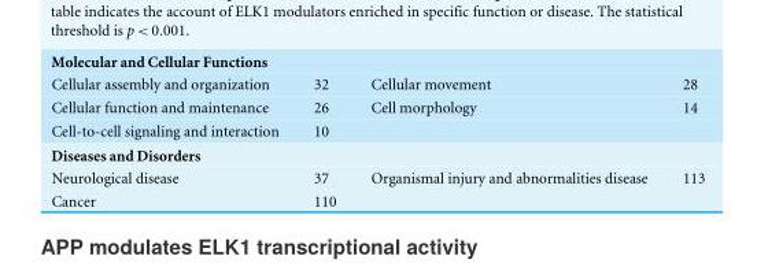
<table><tbody><tr><td colspan="4">Molecular and Cellular Functions</td></tr><tr><td>Cellular assembly and organization</td><td>32</td><td>Cellular movement</td><td>28</td></tr><tr><td>Cellular function and maintenance</td><td>26</td><td>Cell morphology</td><td>14</td></tr><tr><td>Cell-to-cell signaling and interaction</td><td>10</td><td></td><td></td></tr><tr><td colspan="4">Diseases and Disorders</td></tr><tr><td>Neurological disease</td><td>37</td><td>Organismal injury and abnormalities disease</td><td>113</td></tr><tr><td>Cancer</td><td>110</td><td></td><td></td></tr></tbody></table>